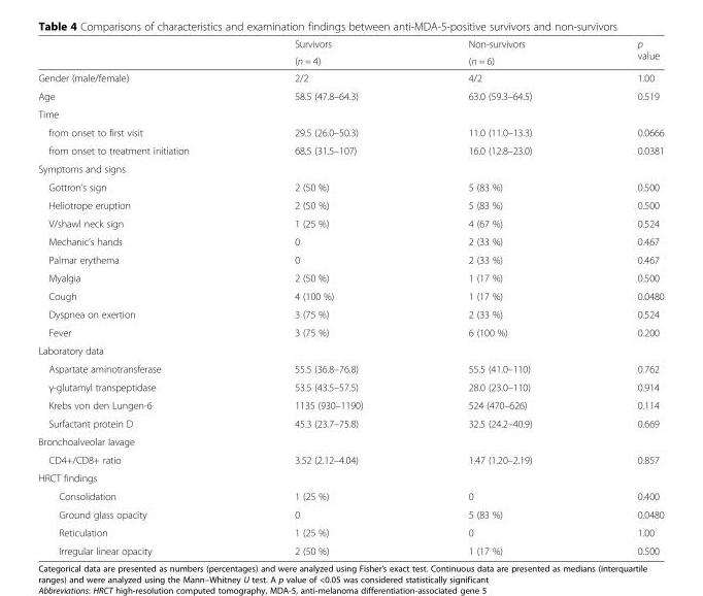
<table><thead><tr><td rowspan="2"></td><td rowspan="2">Survivors (n = 4)</td><td rowspan="2">Non-survivors (n = 6)</td><td rowspan="2">p value</td></tr><tr></tr></thead><tbody><tr><td>Gender (male/female)</td><td>2/2</td><td>4/2</td><td>1.00</td></tr><tr><td>Age</td><td>58.5 (47.8–64.3)</td><td>63.0 (59.3–64.5)</td><td>0.519</td></tr><tr><td colspan="4">Time</td></tr><tr><td>from onset to first visit</td><td>29.5 (26.0–50.3)</td><td>11.0 (11.0–13.3)</td><td>0.0666</td></tr><tr><td>from onset to treatment initiation</td><td>68.5 (31.5–107)</td><td>16.0 (12.8–23.0)</td><td>0.0381</td></tr><tr><td colspan="4">Symptoms and signs</td></tr><tr><td>Gottron’s sign</td><td>2 (50 %)</td><td>5 (83 %)</td><td>0.500</td></tr><tr><td>Heliotrope eruption</td><td>2 (50 %)</td><td>5 (83 %)</td><td>0.500</td></tr><tr><td>V/shawl neck sign</td><td>1 (25 %)</td><td>4 (67 %)</td><td>0.524</td></tr><tr><td>Mechanic’s hands</td><td>0</td><td>2 (33 %)</td><td>0.467</td></tr><tr><td>Palmar erythema</td><td>0</td><td>2 (33 %)</td><td>0.467</td></tr><tr><td>Myalgia</td><td>2 (50 %)</td><td>1 (17 %)</td><td>0.500</td></tr><tr><td>Cough</td><td>4 (100 %)</td><td>1 (17 %)</td><td>0.0480</td></tr><tr><td>Dyspnea on exertion</td><td>3 (75 %)</td><td>2 (33 %)</td><td>0.524</td></tr><tr><td>Fever</td><td>3 (75 %)</td><td>6 (100 %)</td><td>0.200</td></tr><tr><td colspan="4">Laboratory data</td></tr><tr><td>Aspartate aminotransferase</td><td>55.5 (36.8–76.8)</td><td>55.5 (41.0–110)</td><td>0.762</td></tr><tr><td>γ-glutamyl transpeptidase</td><td>53.5 (43.5–57.5)</td><td>28.0 (23.0–110)</td><td>0.914</td></tr><tr><td>Krebs von den Lungen-6</td><td>1135 (930–1190)</td><td>524 (470–626)</td><td>0.114</td></tr><tr><td>Surfactant protein D</td><td>45.3 (23.7–75.8)</td><td>32.5 (24.2–40.9)</td><td>0.669</td></tr><tr><td colspan="4">Bronchoalveolar lavage</td></tr><tr><td>CD4+/CD8+ ratio</td><td>3.52 (2.12–4.04)</td><td>1.47 (1.20–2.19)</td><td>0.857</td></tr><tr><td colspan="4">HRCT findings</td></tr><tr><td>Consolidation</td><td>1 (25 %)</td><td>0</td><td>0.400</td></tr><tr><td>Ground glass opacity</td><td>0</td><td>5 (83 %)</td><td>0.0480</td></tr><tr><td>Reticulation</td><td>1 (25 %)</td><td>0</td><td>1.00</td></tr><tr><td>Irregular linear opacity</td><td>2 (50 %)</td><td>1 (17 %)</td><td>0.500</td></tr></tbody></table>